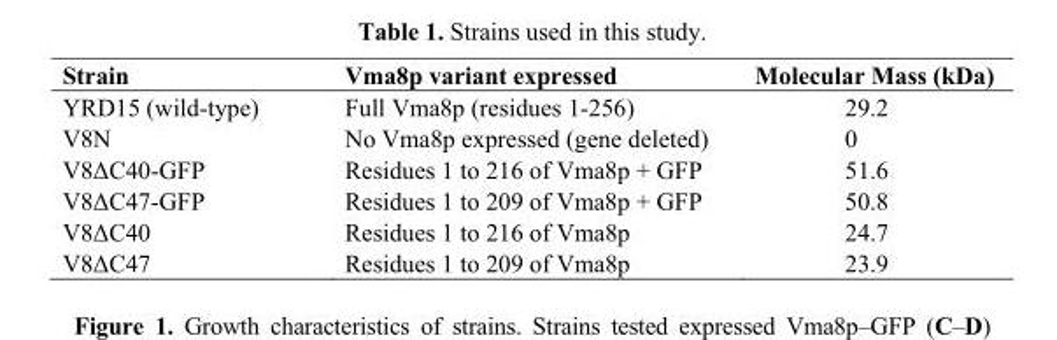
<table><thead><tr><td>Strain</td><td>Vma8p variant expressed</td><td>Molecular Mass (kDa)</td></tr></thead><tbody><tr><td>YRD15 (wild-type)</td><td>Full Vma8p (residues 1-256)</td><td>29.2</td></tr><tr><td>V8N</td><td>No Vma8p expressed (gene deleted)</td><td>0</td></tr><tr><td>V8ΔC40-GFP</td><td>Residues 1 to 216 of Vma8p + GFP</td><td>51.6</td></tr><tr><td>V8ΔC47-GFP</td><td>Residues 1 to 209 of Vma8p + GFP</td><td>50.8</td></tr><tr><td>V8ΔC40</td><td>Residues 1 to 216 of Vma8p</td><td>24.7</td></tr><tr><td>V8ΔC47</td><td>Residues 1 to 209 of Vma8p</td><td>23.9</td></tr></tbody></table>